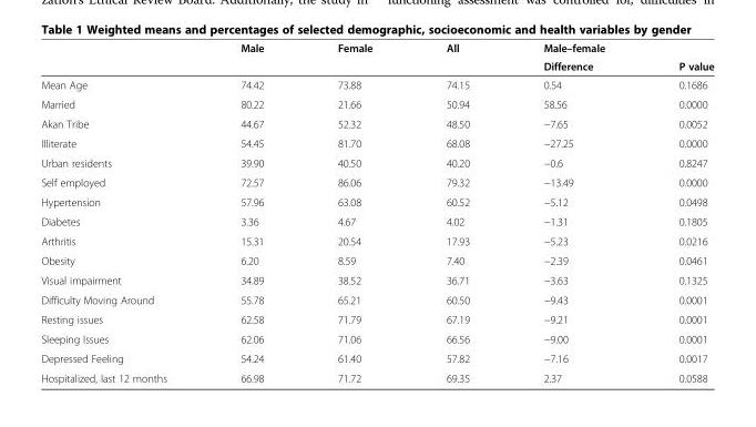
<table><thead><tr><td rowspan="2"></td><td rowspan="2">Male</td><td rowspan="2">Female</td><td rowspan="2">All</td><td rowspan="2">Male–female Difference</td><td rowspan="2">P value</td></tr><tr></tr></thead><tbody><tr><td>Mean Age</td><td>74.42</td><td>73.88</td><td>74.15</td><td>0.54</td><td>0.1686</td></tr><tr><td>Married</td><td>80.22</td><td>21.66</td><td>50.94</td><td>58.56</td><td>0.0000</td></tr><tr><td>Akan Tribe</td><td>44.67</td><td>52.32</td><td>48.50</td><td>−7.65</td><td>0.0052</td></tr><tr><td>Illiterate</td><td>54.45</td><td>81.70</td><td>68.08</td><td>−27.25</td><td>0.0000</td></tr><tr><td>Urban residents</td><td>39.90</td><td>40.50</td><td>40.20</td><td>−0.6</td><td>0.8247</td></tr><tr><td>Self employed</td><td>72.57</td><td>86.06</td><td>79.32</td><td>−13.49</td><td>0.0000</td></tr><tr><td>Hypertension</td><td>57.96</td><td>63.08</td><td>60.52</td><td>−5.12</td><td>0.0498</td></tr><tr><td>Diabetes</td><td>3.36</td><td>4.67</td><td>4.02</td><td>−1.31</td><td>0.1805</td></tr><tr><td>Arthritis</td><td>15.31</td><td>20.54</td><td>17.93</td><td>−5.23</td><td>0.0216</td></tr><tr><td>Obesity</td><td>6.20</td><td>8.59</td><td>7.40</td><td>−2.39</td><td>0.0461</td></tr><tr><td>Visual impairment</td><td>34.89</td><td>38.52</td><td>36.71</td><td>−3.63</td><td>0.1325</td></tr><tr><td>Difficulty Moving Around</td><td>55.78</td><td>65.21</td><td>60.50</td><td>−9.43</td><td>0.0001</td></tr><tr><td>Resting issues</td><td>62.58</td><td>71.79</td><td>67.19</td><td>−9.21</td><td>0.0001</td></tr><tr><td>Sleeping Issues</td><td>62.06</td><td>71.06</td><td>66.56</td><td>−9.00</td><td>0.0001</td></tr><tr><td>Depressed Feeling</td><td>54.24</td><td>61.40</td><td>57.82</td><td>−7.16</td><td>0.0017</td></tr><tr><td>Hospitalized, last 12 months</td><td>66.98</td><td>71.72</td><td>69.35</td><td>2.37</td><td>0.0588</td></tr></tbody></table>